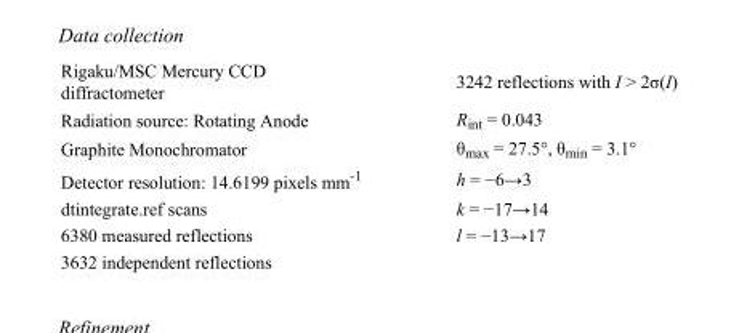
<table><tbody><tr><td>Rigaku/MSC Mercury CCD diffractometer</td><td>3242 reflections with I &gt; 2σ(I)</td></tr><tr><td>Radiation source: Rotating Anode</td><td>R<sub>int</sub> = 0.043</td></tr><tr><td>Graphite Monochromator</td><td>θ<sub>max</sub> = 27.5°, θ<sub>min</sub> = 3.1°</td></tr><tr><td>Detector resolution: 14.6199 pixels mm<sup>-1</sup></td><td>h = −6→3</td></tr><tr><td>dtintegrate.ref scans</td><td>k = −17→14</td></tr><tr><td>6380 measured reflections</td><td>l = −13→17</td></tr><tr><td>3632 independent reflections</td><td></td></tr></tbody></table>